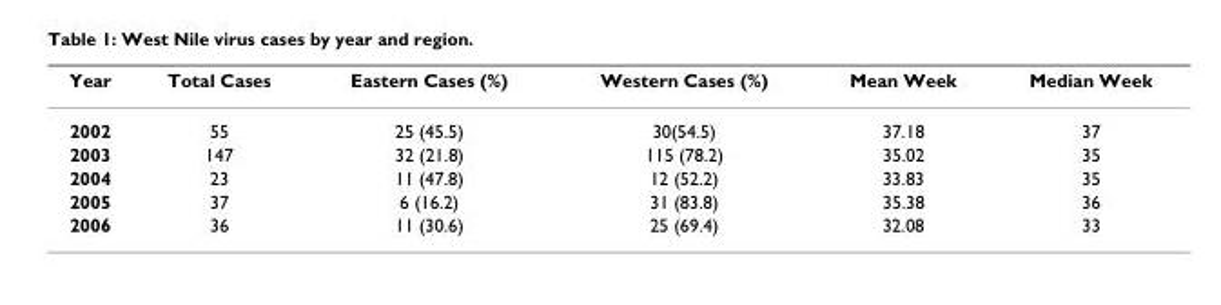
<table><thead><tr><td>Year</td><td>Total Cases</td><td>Eastern Cases (%)</td><td>Western Cases (%)</td><td>Mean Week</td><td>Median Week</td></tr></thead><tbody><tr><td>2002</td><td>55</td><td>25 (45.5)</td><td>30(54.5)</td><td>37.18</td><td>37</td></tr><tr><td>2003</td><td>147</td><td>32 (21.8)</td><td>115 (78.2)</td><td>35.02</td><td>35</td></tr><tr><td>2004</td><td>23</td><td>11 (47.8)</td><td>12 (52.2)</td><td>33.83</td><td>35</td></tr><tr><td>2005</td><td>37</td><td>6 (16.2)</td><td>31 (83.8)</td><td>35.38</td><td>36</td></tr><tr><td>2006</td><td>36</td><td>11 (30.6)</td><td>25 (69.4)</td><td>32.08</td><td>33</td></tr></tbody></table>